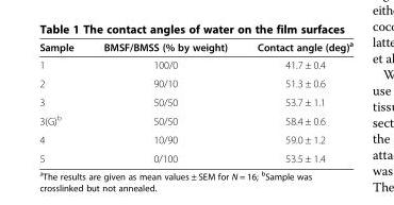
<table><thead><tr><td>Sample</td><td>BMSF/BMSS (% by weight)</td><td>Contact angle (deg)<sup>a</sup></td></tr></thead><tbody><tr><td>1</td><td>100/0</td><td>41.7 ± 0.4</td></tr><tr><td>2</td><td>90/10</td><td>51.3 ± 0.6</td></tr><tr><td>3</td><td>50/50</td><td>53.7 ± 1.1</td></tr><tr><td>3(G)<sup>b</sup></td><td>50/50</td><td>58.4 ± 0.6</td></tr><tr><td>4</td><td>10/90</td><td>59.0 ± 1.2</td></tr><tr><td>5</td><td>0/100</td><td>53.5 ± 1.4</td></tr></tbody></table>